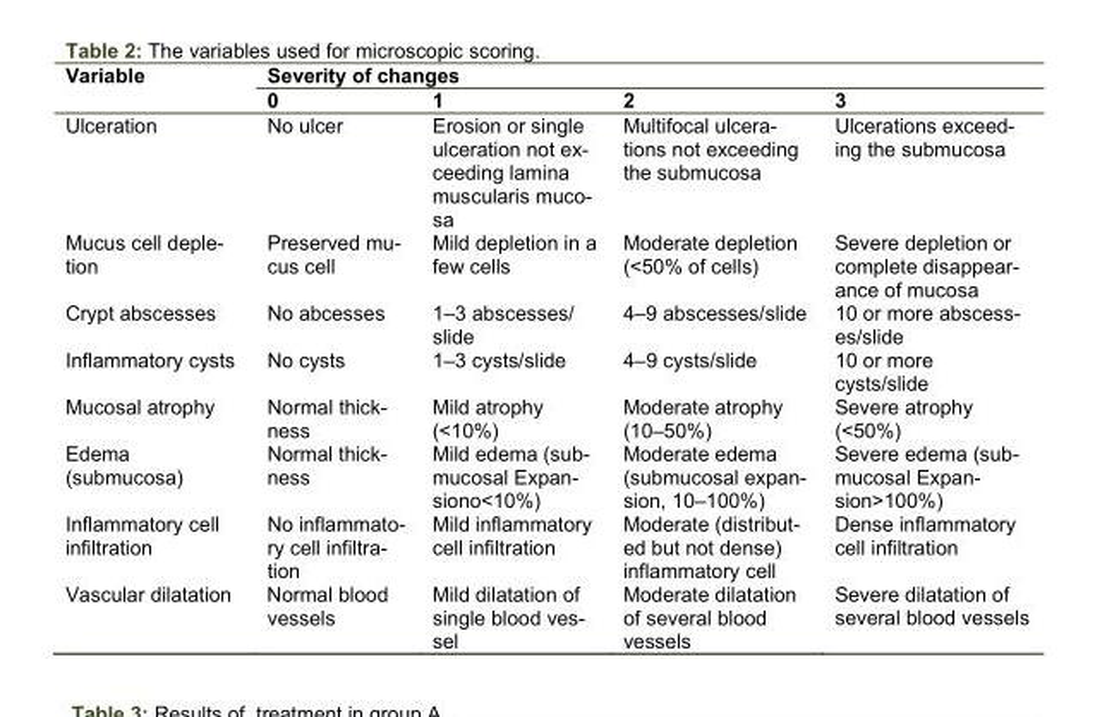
<table><thead><tr><td rowspan="2">Variable</td><td colspan="4">Severity of changes</td></tr><tr><td>0</td><td>1</td><td>2</td><td>3</td></tr></thead><tbody><tr><td>Ulceration</td><td>No ulcer</td><td>Erosion or single ulceration not ex- ceeding lamina muscularis muco- sa</td><td>Multifocal ulcera- tions not exceeding the submucosa</td><td>Ulcerations exceed- ing the submucosa</td></tr><tr><td>Mucus cell deple- tion</td><td>Preserved mu- cus cell</td><td>Mild depletion in a few cells</td><td>Moderate depletion (&lt;50% of cells)</td><td>Severe depletion or complete disappear- ance of mucosa</td></tr><tr><td>Crypt abscesses</td><td>No abcesses</td><td>1–3 abscesses/ slide</td><td>4–9 abscesses/slide</td><td>10 or more abscess- es/slide</td></tr><tr><td>Inflammatory cysts</td><td>No cysts</td><td>1–3 cysts/slide</td><td>4–9 cysts/slide</td><td>10 or more cysts/slide</td></tr><tr><td>Mucosal atrophy</td><td>Normal thick- ness</td><td>Mild atrophy (&lt;10%)</td><td>Moderate atrophy (10–50%)</td><td>Severe atrophy (&lt;50%)</td></tr><tr><td>Edema (submucosa)</td><td>Normal thick- ness</td><td>Mild edema (sub- mucosal Expan- siono&lt;10%)</td><td>Moderate edema (submucosal expan- sion, 10–100%)</td><td>Severe edema (sub- mucosal Expan- sion&gt;100%)</td></tr><tr><td>Inflammatory cell infiltration</td><td>No inflammato- ry cell infiltra- tion</td><td>Mild inflammatory cell infiltration</td><td>Moderate (distribut- ed but not dense) inflammatory cell</td><td>Dense inflammatory cell infiltration</td></tr><tr><td>Vascular dilatation</td><td>Normal blood vessels</td><td>Mild dilatation of single blood ves- sel</td><td>Moderate dilatation of several blood vessels</td><td>Severe dilatation of several blood vessels</td></tr></tbody></table>